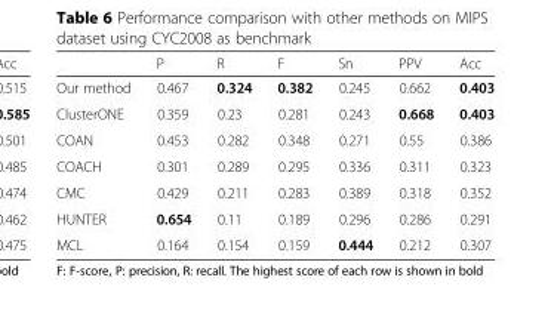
<table><thead><tr><td></td><td>P</td><td>R</td><td>F</td><td>Sn</td><td>PPV</td><td>Acc</td></tr></thead><tbody><tr><td>Our method</td><td>0.467</td><td>0.324</td><td>0.382</td><td>0.245</td><td>0.662</td><td>0.403</td></tr><tr><td>ClusterONE</td><td>0.359</td><td>0.23</td><td>0.281</td><td>0.243</td><td>0.668</td><td>0.403</td></tr><tr><td>COAN</td><td>0.453</td><td>0.282</td><td>0.348</td><td>0.271</td><td>0.55</td><td>0.386</td></tr><tr><td>COACH</td><td>0.301</td><td>0.289</td><td>0.295</td><td>0.336</td><td>0.311</td><td>0.323</td></tr><tr><td>CMC</td><td>0.429</td><td>0.211</td><td>0.283</td><td>0.389</td><td>0.318</td><td>0.352</td></tr><tr><td>HUNTER</td><td>0.654</td><td>0.11</td><td>0.189</td><td>0.296</td><td>0.286</td><td>0.291</td></tr><tr><td>MCL</td><td>0.164</td><td>0.154</td><td>0.159</td><td>0.444</td><td>0.212</td><td>0.307</td></tr></tbody></table>